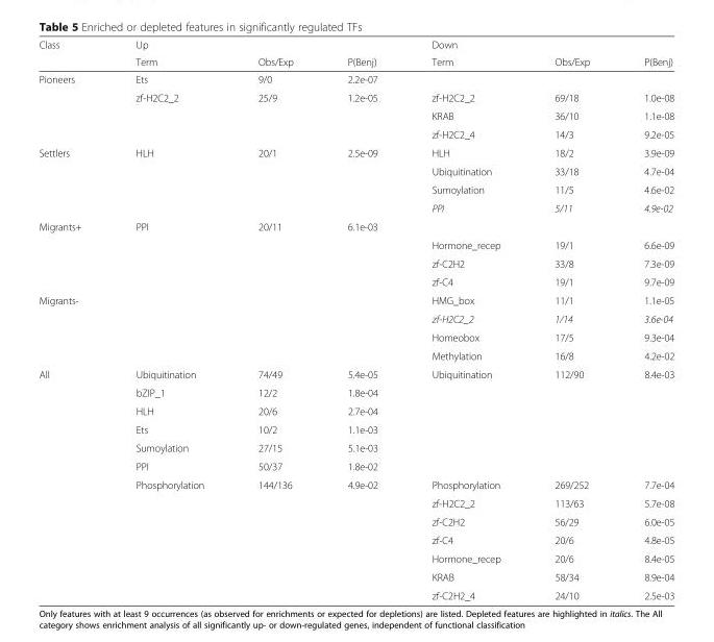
<table><thead><tr><td rowspan="2">Class</td><td rowspan="2">Up Term</td><td rowspan="2">Obs/Exp</td><td rowspan="2">P(Benj)</td><td rowspan="2">Down Term</td><td rowspan="2">Obs/Exp</td><td rowspan="2">P(Benj)</td></tr><tr></tr></thead><tbody><tr><td rowspan="4">Pioneers</td><td>Ets</td><td>9/0</td><td>2.2e-07</td><td></td><td></td><td></td></tr><tr><td>zf-H2C2_2</td><td>25/9</td><td>1.2e-05</td><td>zf-H2C2_2</td><td>69/18</td><td>1.0e-08</td></tr><tr><td></td><td></td><td></td><td>KRAB</td><td>36/10</td><td>1.1e-08</td></tr><tr><td></td><td></td><td></td><td>zf-H2C2_4</td><td>14/3</td><td>9.2e-05</td></tr><tr><td rowspan="4">Settlers</td><td>HLH</td><td>20/1</td><td>2.5e-09</td><td>HLH</td><td>18/2</td><td>3.9e-09</td></tr><tr><td></td><td></td><td></td><td>Ubiquitination</td><td>33/18</td><td>4.7e-04</td></tr><tr><td></td><td></td><td></td><td>Sumoylation</td><td>11/5</td><td>4.6e-02</td></tr><tr><td></td><td></td><td></td><td>PPI</td><td>5/11</td><td>4.9e-02</td></tr><tr><td rowspan="4">Migrants+</td><td>PPI</td><td>20/11</td><td>6.1e-03</td><td></td><td></td><td></td></tr><tr><td></td><td></td><td></td><td>Hormone_recep</td><td>19/1</td><td>6.6e-09</td></tr><tr><td></td><td></td><td></td><td>zf-C2H2</td><td>33/8</td><td>7.3e-09</td></tr><tr><td></td><td></td><td></td><td>zf-C4</td><td>19/1</td><td>9.7e-09</td></tr><tr><td rowspan="4">Migrants-</td><td></td><td></td><td></td><td>HMG_box</td><td>11/1</td><td>1.1e-05</td></tr><tr><td></td><td></td><td></td><td>zf-H2C2_2</td><td>1/14</td><td>3.6e-04</td></tr><tr><td></td><td></td><td></td><td>Homeobox</td><td>17/5</td><td>9.3e-04</td></tr><tr><td></td><td></td><td></td><td>Methylation</td><td>16/8</td><td>4.2e-02</td></tr><tr><td rowspan="13">All</td><td>Ubiquitination</td><td>74/49</td><td>5.4e-05</td><td>Ubiquitination</td><td>112/90</td><td>8.4e-03</td></tr><tr><td>bZIP_1</td><td>12/2</td><td>1.8e-04</td><td></td><td></td><td></td></tr><tr><td>HLH</td><td>20/6</td><td>2.7e-04</td><td></td><td></td><td></td></tr><tr><td>Ets</td><td>10/2</td><td>1.1e-03</td><td></td><td></td><td></td></tr><tr><td>Sumoylation</td><td>27/15</td><td>5.1e-03</td><td></td><td></td><td></td></tr><tr><td>PPI</td><td>50/37</td><td>1.8e-02</td><td></td><td></td><td></td></tr><tr><td>Phosphorylation</td><td>144/136</td><td>4.9e-02</td><td>Phosphorylation</td><td>269/252</td><td>7.7e-04</td></tr><tr><td></td><td></td><td></td><td>zf-H2C2_2</td><td>113/63</td><td>5.7e-08</td></tr><tr><td></td><td></td><td></td><td>zf-C2H2</td><td>56/29</td><td>6.0e-05</td></tr><tr><td></td><td></td><td></td><td>zf-C4</td><td>20/6</td><td>4.8e-05</td></tr><tr><td></td><td></td><td></td><td>Hormone_recep</td><td>20/6</td><td>8.4e-05</td></tr><tr><td></td><td></td><td></td><td>KRAB</td><td>58/34</td><td>8.9e-04</td></tr><tr><td></td><td></td><td></td><td>zf-C2H2_4</td><td>24/10</td><td>2.5e-03</td></tr></tbody></table>